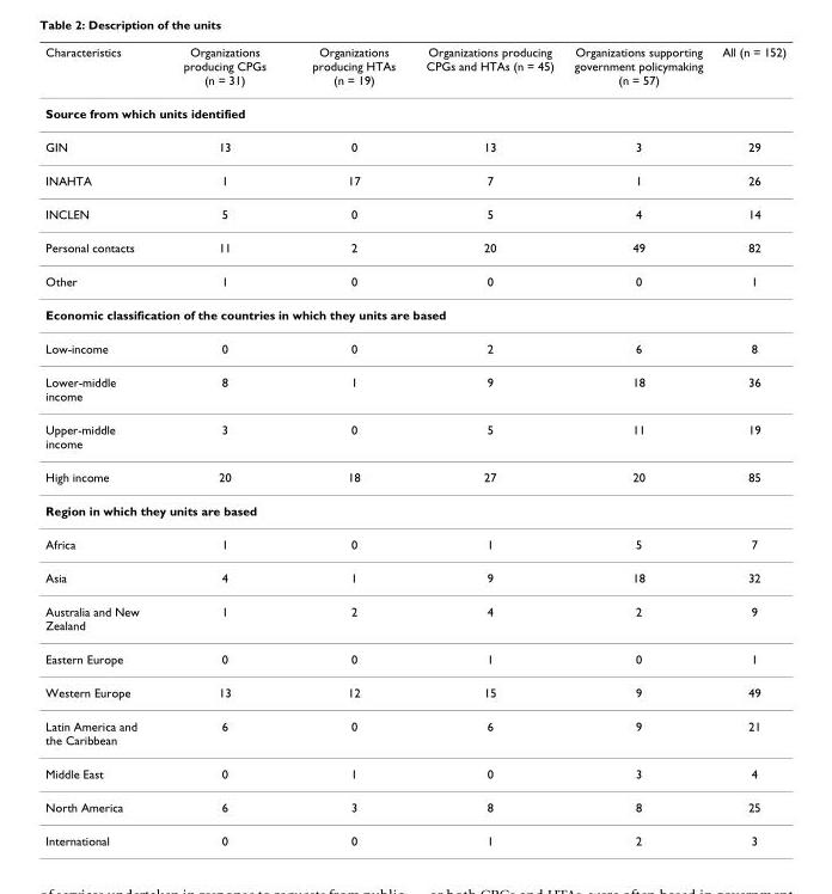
<table><thead><tr><td>Characteristics</td><td>Organizations producing CPGs (n = 31)</td><td>Organizations producing HTAs (n = 19)</td><td>Organizations producing CPGs and HTAs (n = 45)</td><td>Organizations supporting government policymaking (n = 57)</td><td>All (n = 152)</td></tr></thead><tbody><tr><td colspan="6">Source from which units identified</td></tr><tr><td>GIN</td><td>13</td><td>0</td><td>13</td><td>3</td><td>29</td></tr><tr><td>INAHTA</td><td>1</td><td>17</td><td>7</td><td>1</td><td>26</td></tr><tr><td>INCLEN</td><td>5</td><td>0</td><td>5</td><td>4</td><td>14</td></tr><tr><td>Personal contacts</td><td>11</td><td>2</td><td>20</td><td>49</td><td>82</td></tr><tr><td>Other</td><td>1</td><td>0</td><td>0</td><td>0</td><td>1</td></tr><tr><td colspan="6">Economic classification of the countries in which they units are based</td></tr><tr><td>Low-income</td><td>0</td><td>0</td><td>2</td><td>6</td><td>8</td></tr><tr><td>Lower-middle income</td><td>8</td><td>1</td><td>9</td><td>18</td><td>36</td></tr><tr><td>Upper-middle income</td><td>3</td><td>0</td><td>5</td><td>11</td><td>19</td></tr><tr><td>High income</td><td>20</td><td>18</td><td>27</td><td>20</td><td>85</td></tr><tr><td colspan="6">Region in which they units are based</td></tr><tr><td>Africa</td><td>1</td><td>0</td><td>1</td><td>5</td><td>7</td></tr><tr><td>Asia</td><td>4</td><td>1</td><td>9</td><td>18</td><td>32</td></tr><tr><td>Australia and New Zealand</td><td>1</td><td>2</td><td>4</td><td>2</td><td>9</td></tr><tr><td>Eastern Europe</td><td>0</td><td>0</td><td>1</td><td>0</td><td>1</td></tr><tr><td>Western Europe</td><td>13</td><td>12</td><td>15</td><td>9</td><td>49</td></tr><tr><td>Latin America and the Caribbean</td><td>6</td><td>0</td><td>6</td><td>9</td><td>21</td></tr><tr><td>Middle East</td><td>0</td><td>1</td><td>0</td><td>3</td><td>4</td></tr><tr><td>North America</td><td>6</td><td>3</td><td>8</td><td>8</td><td>25</td></tr><tr><td>International</td><td>0</td><td>0</td><td>1</td><td>2</td><td>3</td></tr></tbody></table>